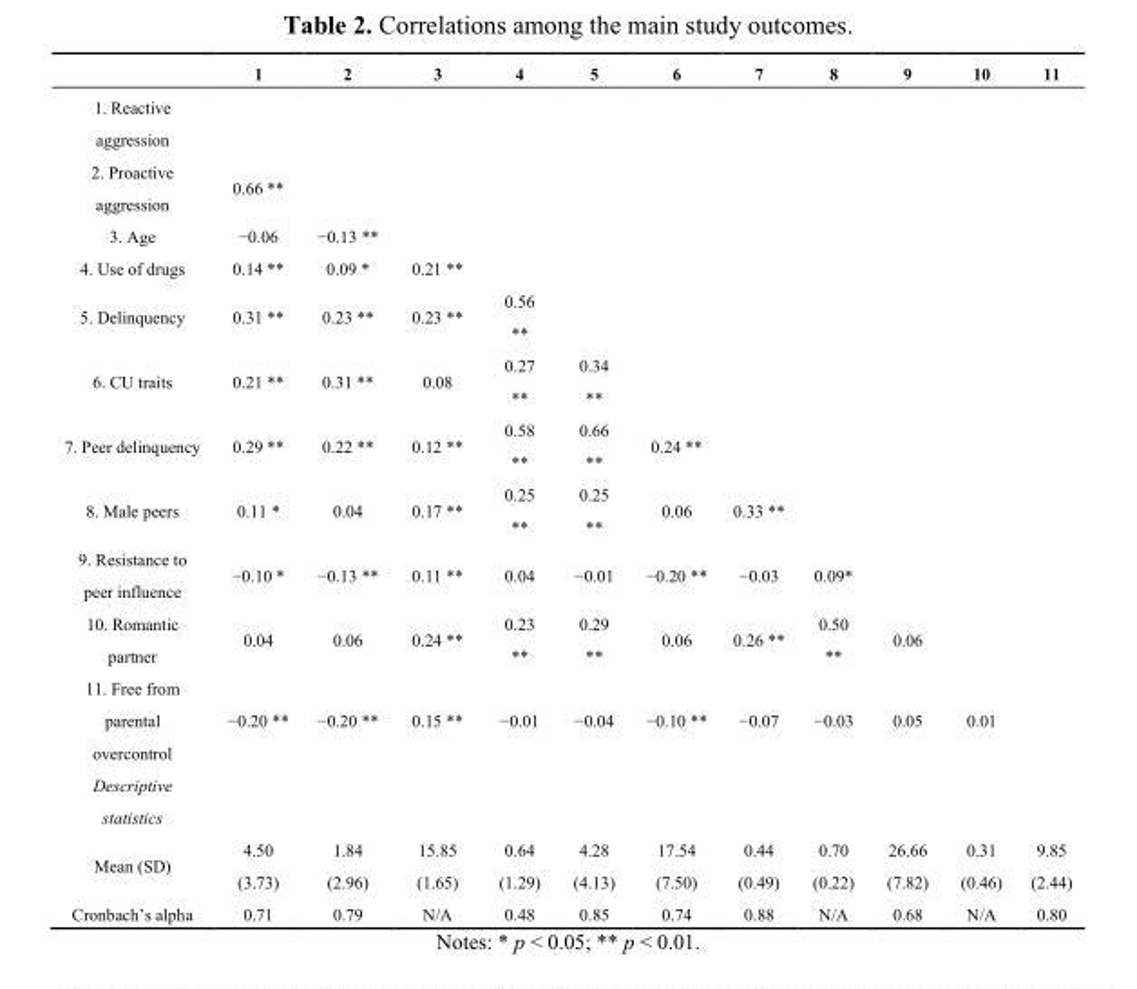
<table><thead><tr><td></td><td>1</td><td>2</td><td>3</td><td>4</td><td>5</td><td>6</td><td>7</td><td>8</td><td>9</td><td>10</td><td>11</td></tr></thead><tbody><tr><td colspan="12">1. Reactive aggression</td></tr><tr><td>2. Proactive aggression</td><td>0.66 **</td><td></td><td></td><td></td><td></td><td></td><td></td><td></td><td></td><td></td><td></td></tr><tr><td>3. Age</td><td>−0.06</td><td>−0.13 **</td><td></td><td></td><td></td><td></td><td></td><td></td><td></td><td></td><td></td></tr><tr><td>4. Use of drugs</td><td>0.14 **</td><td>0.09 *</td><td>0.21 **</td><td></td><td></td><td></td><td></td><td></td><td></td><td></td><td></td></tr><tr><td>5. Delinquency</td><td>0.31 **</td><td>0.23 **</td><td>0.23 **</td><td>0.56 **</td><td></td><td></td><td></td><td></td><td></td><td></td><td></td></tr><tr><td>6. CU traits</td><td>0.21 **</td><td>0.31 **</td><td>0.08</td><td>0.27 **</td><td>0.34 **</td><td></td><td></td><td></td><td></td><td></td><td></td></tr><tr><td>7. Peer delinquency</td><td>0.29 **</td><td>0.22 **</td><td>0.12 **</td><td>0.58 **</td><td>0.66 **</td><td>0.24 **</td><td></td><td></td><td></td><td></td><td></td></tr><tr><td>8. Male peers</td><td>0.11 *</td><td>0.04</td><td>0.17 **</td><td>0.25 **</td><td>0.25 **</td><td>0.06</td><td>0.33 **</td><td></td><td></td><td></td><td></td></tr><tr><td>9. Resistance to peer influence</td><td>−0.10 *</td><td>−0.13 **</td><td>0.11 **</td><td>0.04</td><td>−0.01</td><td>−0.20 **</td><td>−0.03</td><td>0.09*</td><td></td><td></td><td></td></tr><tr><td>10. Romantic partner</td><td>0.04</td><td>0.06</td><td>0.24 **</td><td>0.23 **</td><td>0.29 **</td><td>0.06</td><td>0.26 **</td><td>0.50 **</td><td>0.06</td><td></td><td></td></tr><tr><td>11. Free from parental overcontrol</td><td>−0.20 **</td><td>−0.20 **</td><td>0.15 **</td><td>−0.01</td><td>−0.04</td><td>−0.10 **</td><td>−0.07</td><td>−0.03</td><td>0.05</td><td>0.01</td><td></td></tr><tr><td colspan="12">Descriptive statistics</td></tr><tr><td>Mean (SD)</td><td>4.50 (3.73)</td><td>1.84 (2.96)</td><td>15.85 (1.65)</td><td>0.64 (1.29)</td><td>4.28 (4.13)</td><td>17.54 (7.50)</td><td>0.44 (0.49)</td><td>0.70 (0.22)</td><td>26.66 (7.82)</td><td>0.31 (0.46)</td><td>9.85 (2.44)</td></tr><tr><td>Cronbach’s alpha</td><td>0.71</td><td>0.79</td><td>N/A</td><td>0.48</td><td>0.85</td><td>0.74</td><td>0.88</td><td>N/A</td><td>0.68</td><td>N/A</td><td>0.80</td></tr></tbody></table>